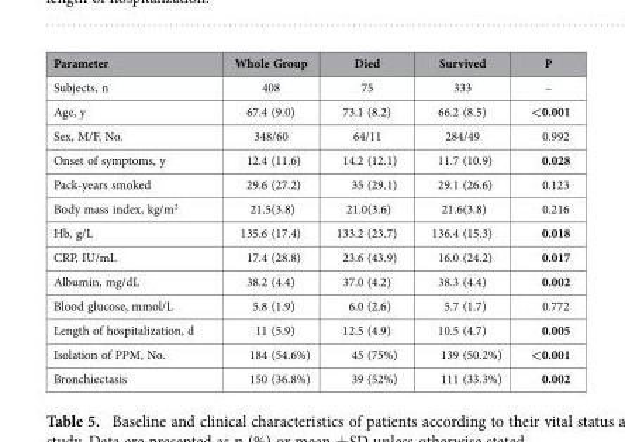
<table><thead><tr><td>Parameter</td><td>Whole Group</td><td>Died</td><td>Survived</td><td>P</td></tr></thead><tbody><tr><td>Subjects, n</td><td>408</td><td>75</td><td>333</td><td>–</td></tr><tr><td>Age, y</td><td>67.4 (9.0)</td><td>73.1 (8.2)</td><td>66.2 (8.5)</td><td>&lt;0.001</td></tr><tr><td>Sex, M/F, No.</td><td>348/60</td><td>64/11</td><td>284/49</td><td>0.992</td></tr><tr><td>Onset of symptoms, y</td><td>12.4 (11.6)</td><td>14.2 (12.1)</td><td>11.7 (10.9)</td><td>0.028</td></tr><tr><td>Pack-years smoked</td><td>29.6 (27.2)</td><td>35 (29.1)</td><td>29.1 (26.6)</td><td>0.123</td></tr><tr><td>Body mass index, kg/m<sup>2</sup></td><td>21.5(3.8)</td><td>21.0(3.6)</td><td>21.6(3.8)</td><td>0.216</td></tr><tr><td>Hb, g/L</td><td>135.6 (17.4)</td><td>133.2 (23.7)</td><td>136.4 (15.3)</td><td>0.018</td></tr><tr><td>CRP, IU/mL</td><td>17.4 (28.8)</td><td>23.6 (43.9)</td><td>16.0 (24.2)</td><td>0.017</td></tr><tr><td>Albumin, mg/dL</td><td>38.2 (4.4)</td><td>37.0 (4.2)</td><td>38.3 (4.4)</td><td>0.002</td></tr><tr><td>Blood glucose, mmol/L</td><td>5.8 (1.9)</td><td>6.0 (2.6)</td><td>5.7 (1.7)</td><td>0.772</td></tr><tr><td>Length of hospitalization, d</td><td>11 (5.9)</td><td>12.5 (4.9)</td><td>10.5 (4.7)</td><td>0.005</td></tr><tr><td>Isolation of PPM, No.</td><td>184 (54.6%)</td><td>45 (75%)</td><td>139 (50.2%)</td><td>&lt;0.001</td></tr><tr><td>Bronchiectasis</td><td>150 (36.8%)</td><td>39 (52%)</td><td>111 (33.3%)</td><td>0.002</td></tr></tbody></table>